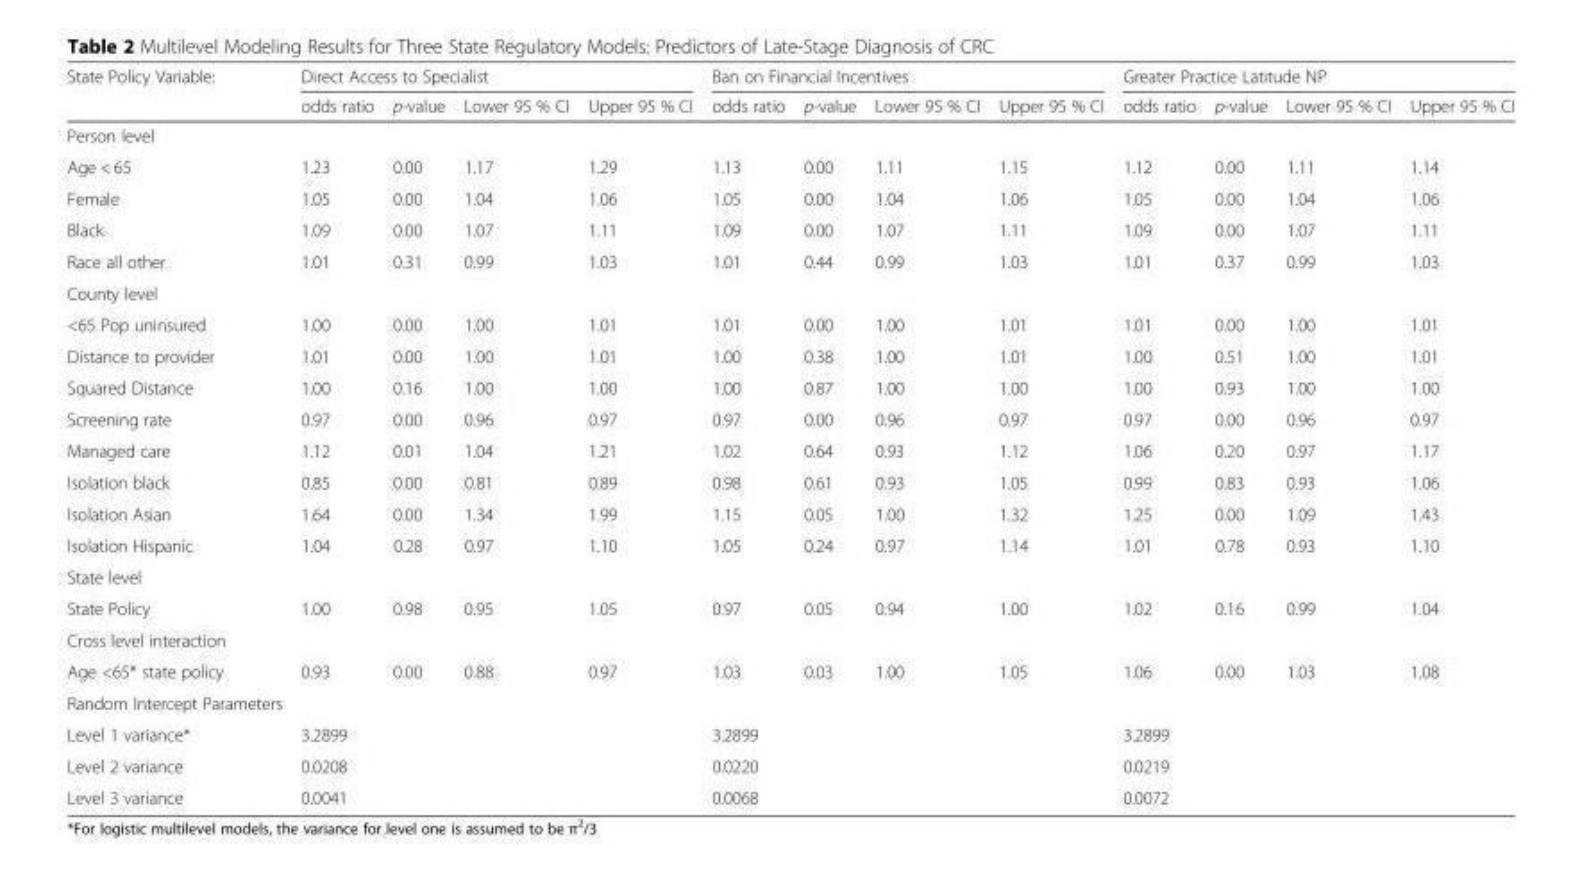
<table><thead><tr><td rowspan="2">State Policy Variable:</td><td colspan="4">Direct Access to Specialist</td><td colspan="4">Ban on Financial Incentives</td><td colspan="4">Greater Practice Latitude NP</td></tr><tr><td>odds ratio</td><td>p-value</td><td>Lower 95 % CI</td><td>Upper 95 % CI</td><td>odds ratio</td><td>p-value</td><td>Lower 95 % CI</td><td>Upper 95 % CI</td><td>odds ratio</td><td>p-value</td><td>Lower 95 % CI</td><td>Upper 95 % CI</td></tr></thead><tbody><tr><td colspan="13">Person level</td></tr><tr><td>Age &lt; 65</td><td>1.23</td><td>0.00</td><td>1.17</td><td>1.29</td><td>1.13</td><td>0.00</td><td>1.11</td><td>1.15</td><td>1.12</td><td>0.00</td><td>1.11</td><td>1.14</td></tr><tr><td>Female</td><td>1.05</td><td>0.00</td><td>1.04</td><td>1.06</td><td>1.05</td><td>0.00</td><td>1.04</td><td>1.06</td><td>1.05</td><td>0.00</td><td>1.04</td><td>1.06</td></tr><tr><td>Black</td><td>1.09</td><td>0.00</td><td>1.07</td><td>1.11</td><td>1.09</td><td>0.00</td><td>1.07</td><td>1.11</td><td>1.09</td><td>0.00</td><td>1.07</td><td>1.11</td></tr><tr><td>Race all other</td><td>1.01</td><td>0.31</td><td>0.99</td><td>1.03</td><td>1.01</td><td>0.44</td><td>0.99</td><td>1.03</td><td>1.01</td><td>0.37</td><td>0.99</td><td>1.03</td></tr><tr><td colspan="13">County level</td></tr><tr><td>&lt;65 Pop uninsured</td><td>1.00</td><td>0.00</td><td>1.00</td><td>1.01</td><td>1.01</td><td>0.00</td><td>1.00</td><td>1.01</td><td>1.01</td><td>0.00</td><td>1.00</td><td>1.01</td></tr><tr><td>Distance to provider</td><td>1.01</td><td>0.00</td><td>1.00</td><td>1.01</td><td>1.00</td><td>0.38</td><td>1.00</td><td>1.01</td><td>1.00</td><td>0.51</td><td>1.00</td><td>1.01</td></tr><tr><td>Squared Distance</td><td>1.00</td><td>0.16</td><td>1.00</td><td>1.00</td><td>1.00</td><td>0.87</td><td>1.00</td><td>1.00</td><td>1.00</td><td>0.93</td><td>1.00</td><td>1.00</td></tr><tr><td>Screening rate</td><td>0.97</td><td>0.00</td><td>0.96</td><td>0.97</td><td>0.97</td><td>0.00</td><td>0.96</td><td>0.97</td><td>0.97</td><td>0.00</td><td>0.96</td><td>0.97</td></tr><tr><td>Managed care</td><td>1.12</td><td>0.01</td><td>1.04</td><td>1.21</td><td>1.02</td><td>0.64</td><td>0.93</td><td>1.12</td><td>1.06</td><td>0.20</td><td>0.97</td><td>1.17</td></tr><tr><td>Isolation black</td><td>0.85</td><td>0.00</td><td>0.81</td><td>0.89</td><td>0.98</td><td>0.61</td><td>0.93</td><td>1.05</td><td>0.99</td><td>0.83</td><td>0.93</td><td>1.06</td></tr><tr><td>Isolation Asian</td><td>1.64</td><td>0.00</td><td>1.34</td><td>1.99</td><td>1.15</td><td>0.05</td><td>1.00</td><td>1.32</td><td>1.25</td><td>0.00</td><td>1.09</td><td>1.43</td></tr><tr><td>Isolation Hispanic</td><td>1.04</td><td>0.28</td><td>0.97</td><td>1.10</td><td>1.05</td><td>0.24</td><td>0.97</td><td>1.14</td><td>1.01</td><td>0.78</td><td>0.93</td><td>1.10</td></tr><tr><td colspan="13">State level</td></tr><tr><td>State Policy</td><td>1.00</td><td>0.98</td><td>0.95</td><td>1.05</td><td>0.97</td><td>0.05</td><td>0.94</td><td>1.00</td><td>1.02</td><td>0.16</td><td>0.99</td><td>1.04</td></tr><tr><td colspan="13">Cross level interaction</td></tr><tr><td>Age &lt;65* state policy</td><td>0.93</td><td>0.00</td><td>0.88</td><td>0.97</td><td>1.03</td><td>0.03</td><td>1.00</td><td>1.05</td><td>1.06</td><td>0.00</td><td>1.03</td><td>1.08</td></tr><tr><td colspan="13">Random Intercept Parameters</td></tr><tr><td>Level 1 variance*</td><td colspan="4">3.2899</td><td colspan="4">3.2899</td><td colspan="4">3.2899</td></tr><tr><td>Level 2 variance</td><td colspan="4">0.0208</td><td colspan="4">0.0220</td><td colspan="4">0.0219</td></tr><tr><td>Level 3 variance</td><td colspan="4">0.0041</td><td colspan="4">0.0068</td><td colspan="4">0.0072</td></tr></tbody></table>